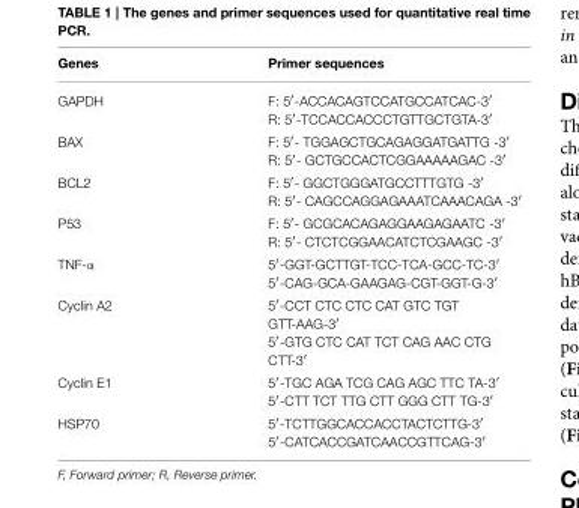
<table><thead><tr><td>Genes</td><td>Primer sequences</td></tr></thead><tbody><tr><td>GAPDH</td><td>F: 5′-ACCACAGTCCATGCCATCAC-3′ R: 5′-TCCACCACCCTGTTGCTGTA-3′</td></tr><tr><td>BAX</td><td>F: 5′- TGGAGCTGCAGAGGATGATTG -3′ R: 5′- GCTGCCACTCGGAAAAAGAC -3′</td></tr><tr><td>BCL2</td><td>F: 5′- GGCTGGGATGCCTTTGTG -3′ R: 5′- CAGCCAGGAGAAATCAAACAGA -3′</td></tr><tr><td>P53</td><td>F: 5′- GCGCACAGAGGAAGAGAATC -3′ R: 5′- CTCTCGGAACATCTCGAAGC -3′</td></tr><tr><td>TNF-α</td><td>5′-GGT-GCTTGT-TCC-TCA-GCC-TC-3′ 5′-CAG-GCA-GAAGAG-CGT-GGT-G-3′</td></tr><tr><td>Cyclin A2</td><td>5′-CCT CTC CTC CAT GTC TGT GTT-AAG-3′ 5′-GTG CTC CAT TCT CAG AAC CTG CTT-3′</td></tr><tr><td>Cyclin E1</td><td>5′-TGC AGA TCG CAG AGC TTC TA-3′ 5′-CTT TCT TTG CTT GGG CTT TG-3′</td></tr><tr><td>HSP70</td><td>5′-TCTTGGCACCACCTACTCTTG-3′ 5′-CATCACCGATCAACCGTTCAG-3′</td></tr></tbody></table>